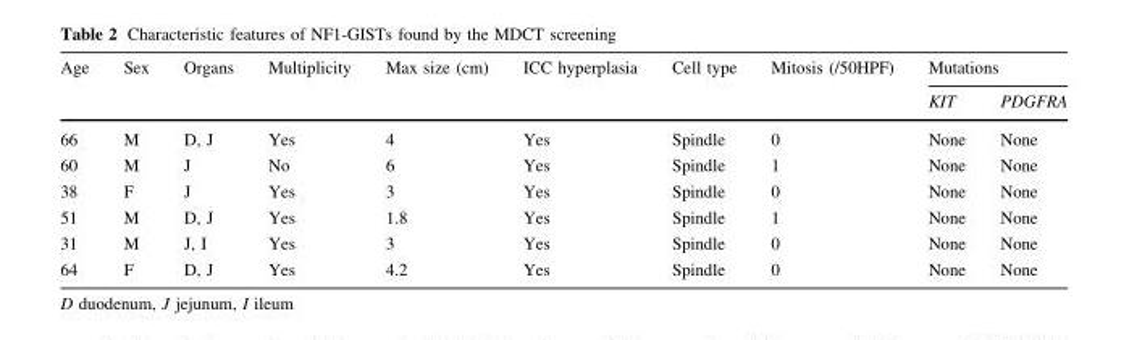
<table><thead><tr><td rowspan="2">Age</td><td rowspan="2">Sex</td><td rowspan="2">Organs</td><td rowspan="2">Multiplicity</td><td rowspan="2">Max size (cm)</td><td rowspan="2">ICC hyperplasia</td><td rowspan="2">Cell type</td><td rowspan="2">Mitosis (/50HPF)</td><td colspan="2">Mutations</td></tr><tr><td>KIT</td><td>PDGFRA</td></tr></thead><tbody><tr><td>66</td><td>M</td><td>D, J</td><td>Yes</td><td>4</td><td>Yes</td><td>Spindle</td><td>0</td><td>None</td><td>None</td></tr><tr><td>60</td><td>M</td><td>J</td><td>No</td><td>6</td><td>Yes</td><td>Spindle</td><td>1</td><td>None</td><td>None</td></tr><tr><td>38</td><td>F</td><td>J</td><td>Yes</td><td>3</td><td>Yes</td><td>Spindle</td><td>0</td><td>None</td><td>None</td></tr><tr><td>51</td><td>M</td><td>D, J</td><td>Yes</td><td>1.8</td><td>Yes</td><td>Spindle</td><td>1</td><td>None</td><td>None</td></tr><tr><td>31</td><td>M</td><td>J, I</td><td>Yes</td><td>3</td><td>Yes</td><td>Spindle</td><td>0</td><td>None</td><td>None</td></tr><tr><td>64</td><td>F</td><td>D, J</td><td>Yes</td><td>4.2</td><td>Yes</td><td>Spindle</td><td>0</td><td>None</td><td>None</td></tr></tbody></table>